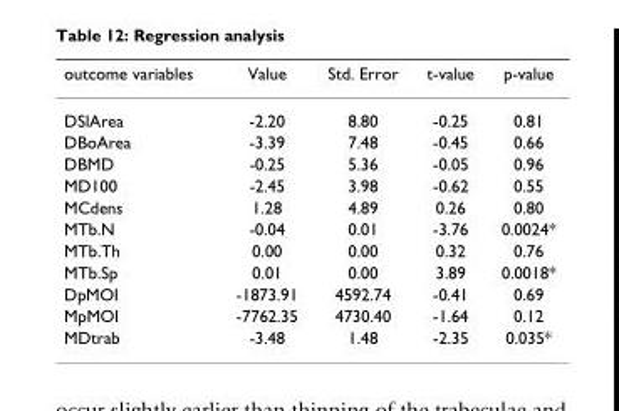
<table><thead><tr><td>outcome variables</td><td>Value</td><td>Std. Error</td><td>t-value</td><td>p-value</td></tr></thead><tbody><tr><td>DSlArea</td><td>-2.20</td><td>8.80</td><td>-0.25</td><td>0.81</td></tr><tr><td>DBoArea</td><td>-3.39</td><td>7.48</td><td>-0.45</td><td>0.66</td></tr><tr><td>DBMD</td><td>-0.25</td><td>5.36</td><td>-0.05</td><td>0.96</td></tr><tr><td>MD100</td><td>-2.45</td><td>3.98</td><td>-0.62</td><td>0.55</td></tr><tr><td>MCdens</td><td>1.28</td><td>4.89</td><td>0.26</td><td>0.80</td></tr><tr><td>MTb.N</td><td>-0.04</td><td>0.01</td><td>-3.76</td><td>0.0024*</td></tr><tr><td>MTb.Th</td><td>0.00</td><td>0.00</td><td>0.32</td><td>0.76</td></tr><tr><td>MTb.Sp</td><td>0.01</td><td>0.00</td><td>3.89</td><td>0.0018*</td></tr><tr><td>DpMOI</td><td>-1873.91</td><td>4592.74</td><td>-0.41</td><td>0.69</td></tr><tr><td>MpMOI</td><td>-7762.35</td><td>4730.40</td><td>-1.64</td><td>0.12</td></tr><tr><td>MDtrab</td><td>-3.48</td><td>1.48</td><td>-2.35</td><td>0.035*</td></tr></tbody></table>